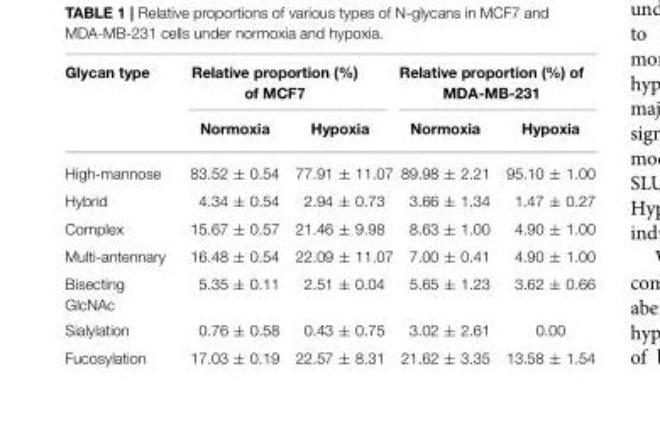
<table><thead><tr><td rowspan="2">Glycan type</td><td colspan="2">Relative proportion (%) of MCF7</td><td colspan="2">Relative proportion (%) of MDA-MB-231</td></tr><tr><td>Normoxia</td><td>Hypoxia</td><td>Normoxia</td><td>Hypoxia</td></tr></thead><tbody><tr><td>High-mannose</td><td>83.52 ± 0.54</td><td>77.91 ± 11.07</td><td>89.98 ± 2.21</td><td>95.10 ± 1.00</td></tr><tr><td>Hybrid</td><td>4.34 ± 0.54</td><td>2.94 ± 0.73</td><td>3.66 ± 1.34</td><td>1.47 ± 0.27</td></tr><tr><td>Complex</td><td>15.67 ± 0.57</td><td>21.46 ± 9.98</td><td>8.63 ± 1.00</td><td>4.90 ± 1.00</td></tr><tr><td>Multi-antennary</td><td>16.48 ± 0.54</td><td>22.09 ± 11.07</td><td>7.00 ± 0.41</td><td>4.90 ± 1.00</td></tr><tr><td>Bisecting GlcNAc</td><td>5.35 ± 0.11</td><td>2.51 ± 0.04</td><td>5.65 ± 1.23</td><td>3.62 ± 0.66</td></tr><tr><td>Sialylation</td><td>0.76 ± 0.58</td><td>0.43 ± 0.75</td><td>3.02 ± 2.61</td><td>0.00</td></tr><tr><td>Fucosylation</td><td>17.03 ± 0.19</td><td>22.57 ± 8.31</td><td>21.62 ± 3.35</td><td>13.58 ± 1.54</td></tr></tbody></table>